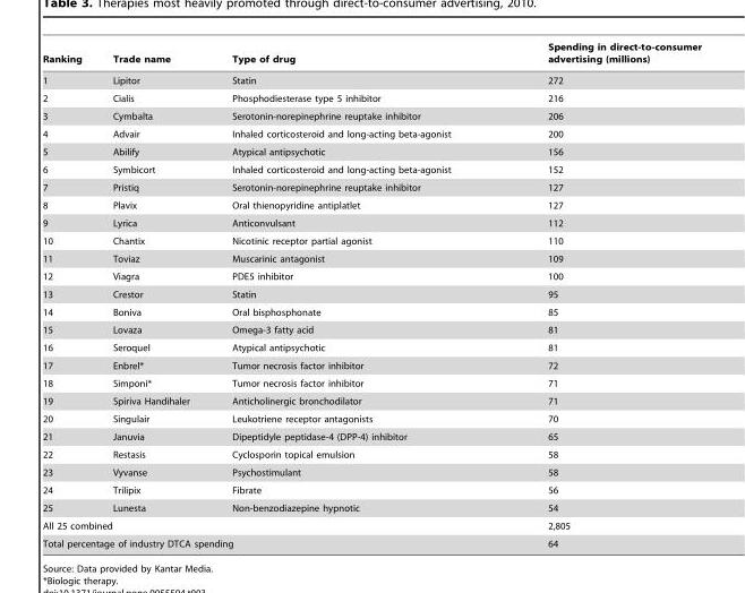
<table><thead><tr><td>Ranking</td><td>Trade name</td><td>Type of drug</td><td>Spending in direct-to-consumer advertising (millions)</td></tr></thead><tbody><tr><td>1</td><td>Lipitor</td><td>Statin</td><td>272</td></tr><tr><td>2</td><td>Cialis</td><td>Phosphodiesterase type 5 inhibitor</td><td>216</td></tr><tr><td>3</td><td>Cymbalta</td><td>Serotonin-norepinephrine reuptake inhibitor</td><td>206</td></tr><tr><td>4</td><td>Advair</td><td>Inhaled corticosteroid and long-acting beta-agonist</td><td>200</td></tr><tr><td>5</td><td>Abilify</td><td>Atypical antipsychotic</td><td>156</td></tr><tr><td>6</td><td>Symbicort</td><td>Inhaled corticosteroid and long-acting beta-agonist</td><td>152</td></tr><tr><td>7</td><td>Pristiq</td><td>Serotonin-norepinephrine reuptake inhibitor</td><td>127</td></tr><tr><td>8</td><td>Plavix</td><td>Oral thienopyridine antiplatlet</td><td>127</td></tr><tr><td>9</td><td>Lyrica</td><td>Anticonvulsant</td><td>112</td></tr><tr><td>10</td><td>Chantix</td><td>Nicotinic receptor partial agonist</td><td>110</td></tr><tr><td>11</td><td>Toviaz</td><td>Muscarinic antagonist</td><td>109</td></tr><tr><td>12</td><td>Viagra</td><td>PDE5 inhibitor</td><td>100</td></tr><tr><td>13</td><td>Crestor</td><td>Statin</td><td>95</td></tr><tr><td>14</td><td>Boniva</td><td>Oral bisphosphonate</td><td>85</td></tr><tr><td>15</td><td>Lovaza</td><td>Omega-3 fatty acid</td><td>81</td></tr><tr><td>16</td><td>Seroquel</td><td>Atypical antipsychotic</td><td>81</td></tr><tr><td>17</td><td>Enbrel*</td><td>Tumor necrosis factor inhibitor</td><td>72</td></tr><tr><td>18</td><td>Simponi*</td><td>Tumor necrosis factor inhibitor</td><td>71</td></tr><tr><td>19</td><td>Spiriva Handihaler</td><td>Anticholinergic bronchodilator</td><td>71</td></tr><tr><td>20</td><td>Singulair</td><td>Leukotriene receptor antagonists</td><td>70</td></tr><tr><td>21</td><td>Januvia</td><td>Dipeptidyle peptidase-4 (DPP-4) inhibitor</td><td>65</td></tr><tr><td>22</td><td>Restasis</td><td>Cyclosporin topical emulsion</td><td>58</td></tr><tr><td>23</td><td>Vyvanse</td><td>Psychostimulant</td><td>58</td></tr><tr><td>24</td><td>Trilipix</td><td>Fibrate</td><td>56</td></tr><tr><td>25</td><td>Lunesta</td><td>Non-benzodiazepine hypnotic</td><td>54</td></tr><tr><td colspan="3">All 25 combined</td><td>2,805</td></tr><tr><td colspan="3">Total percentage of industry DTCA spending</td><td>64</td></tr></tbody></table>